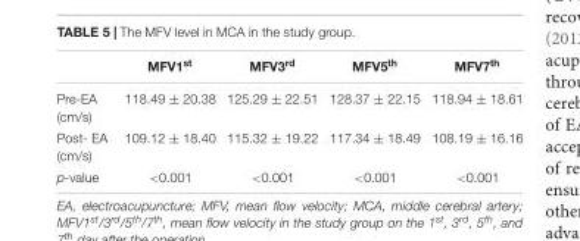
<table><thead><tr><td></td><td>MFV1<sup>st</sup></td><td>MFV3<sup>rd</sup></td><td>MFV5<sup>th</sup></td><td>MFV7<sup>th</sup></td></tr></thead><tbody><tr><td>Pre-EA (cm/s)</td><td>118.49 ± 20.38</td><td>125.29 ± 22.51</td><td>128.37 ± 22.15</td><td>118.94 ± 18.61</td></tr><tr><td>Post- EA (cm/s)</td><td>109.12 ± 18.40</td><td>115.32 ± 19.22</td><td>117.34 ± 18.49</td><td>108.19 ± 16.16</td></tr><tr><td>p-value</td><td>&lt;0.001</td><td>&lt;0.001</td><td>&lt;0.001</td><td>&lt;0.001</td></tr></tbody></table>